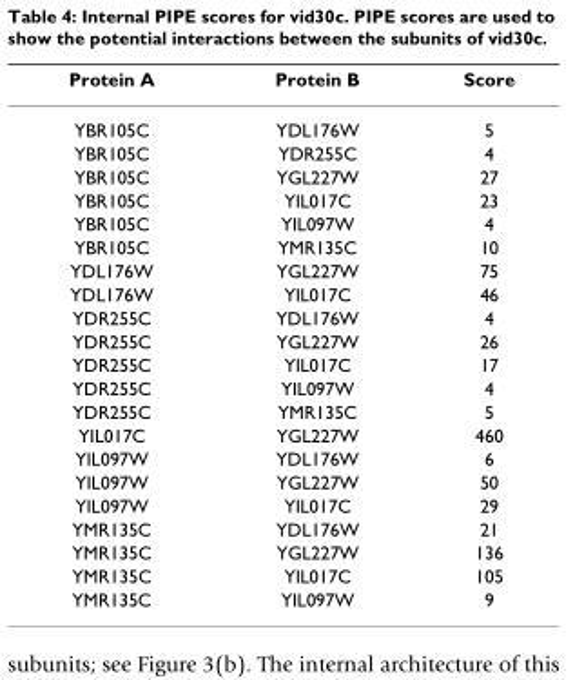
<table><thead><tr><td>Protein A</td><td>Protein B</td><td>Score</td></tr></thead><tbody><tr><td>YBR105C</td><td>YDL176W</td><td>5</td></tr><tr><td>YBR105C</td><td>YDR255C</td><td>4</td></tr><tr><td>YBR105C</td><td>YGL227W</td><td>27</td></tr><tr><td>YBR105C</td><td>YIL017C</td><td>23</td></tr><tr><td>YBR105C</td><td>YIL097W</td><td>4</td></tr><tr><td>YBR105C</td><td>YMR135C</td><td>10</td></tr><tr><td>YDL176W</td><td>YGL227W</td><td>75</td></tr><tr><td>YDL176W</td><td>YIL017C</td><td>46</td></tr><tr><td>YDR255C</td><td>YDL176W</td><td>4</td></tr><tr><td>YDR255C</td><td>YGL227W</td><td>26</td></tr><tr><td>YDR255C</td><td>YIL017C</td><td>17</td></tr><tr><td>YDR255C</td><td>YIL097W</td><td>4</td></tr><tr><td>YDR255C</td><td>YMR135C</td><td>5</td></tr><tr><td>YIL017C</td><td>YGL227W</td><td>460</td></tr><tr><td>YIL097W</td><td>YDL176W</td><td>6</td></tr><tr><td>YIL097W</td><td>YGL227W</td><td>50</td></tr><tr><td>YIL097W</td><td>YIL017C</td><td>29</td></tr><tr><td>YMR135C</td><td>YDL176W</td><td>21</td></tr><tr><td>YMR135C</td><td>YGL227W</td><td>136</td></tr><tr><td>YMR135C</td><td>YIL017C</td><td>105</td></tr><tr><td>YMR135C</td><td>YIL097W</td><td>9</td></tr></tbody></table>